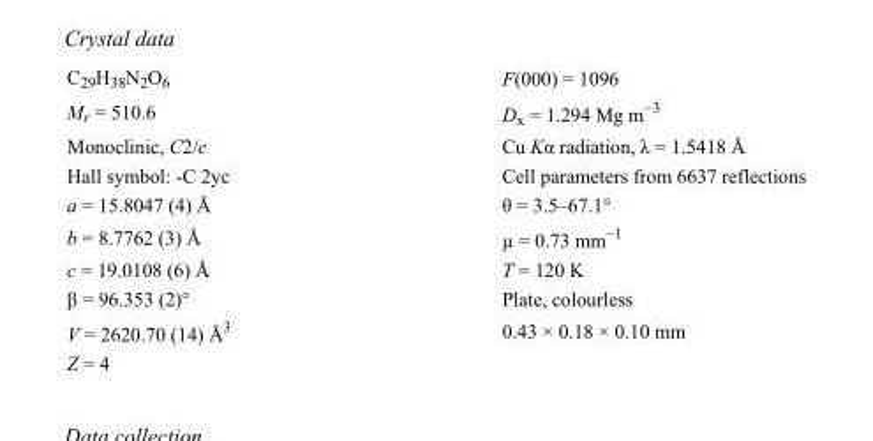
<table><tbody><tr><td>C<sub>29</sub>H<sub>38</sub>N<sub>2</sub>O<sub>6</sub></td><td>F(000) = 1096</td></tr><tr><td>M<sub>r</sub> = 510.6</td><td>D<sub>x</sub> = 1.294 Mg m<sup>−3</sup></td></tr><tr><td>Monoclinic, C2/c</td><td>Cu Kα radiation, λ = 1.5418 Å</td></tr><tr><td>Hall symbol: -C 2yc</td><td>Cell parameters from 6637 reflections</td></tr><tr><td>a = 15.8047 (4) Å</td><td>θ = 3.5–67.1°</td></tr><tr><td>b = 8.7762 (3) Å</td><td>µ = 0.73 mm<sup>−1</sup></td></tr><tr><td>c = 19.0108 (6) Å</td><td>T = 120 K</td></tr><tr><td>β = 96.353 (2)°</td><td>Plate, colourless</td></tr><tr><td>V = 2620.70 (14) Å<sup>3</sup></td><td>0.43 × 0.18 × 0.10 mm</td></tr><tr><td>Z = 4</td><td></td></tr></tbody></table>